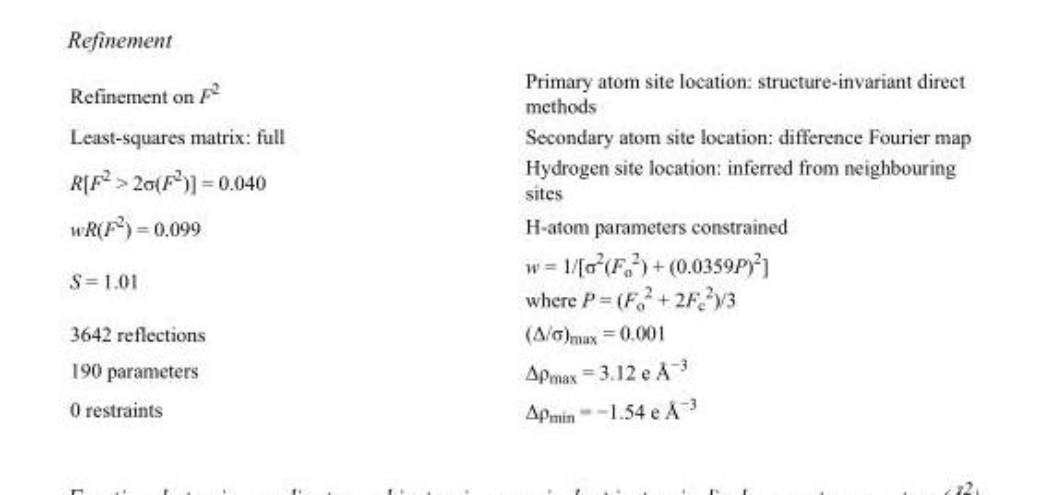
<table><tbody><tr><td>Refinement on F<sup>2</sup></td><td>Primary atom site location: structure-invariant direct methods</td></tr><tr><td>Least-squares matrix: full</td><td>Secondary atom site location: difference Fourier map</td></tr><tr><td>R[F<sup>2</sup> &gt; 2σ(F<sup>2</sup>)] = 0.040</td><td>Hydrogen site location: inferred from neighbouring sites</td></tr><tr><td>wR(F<sup>2</sup>) = 0.099</td><td>H-atom parameters constrained</td></tr><tr><td>S = 1.01</td><td>w = 1/[σ<sup>2</sup>(F<sub>o</sub> <sup>2</sup>) + (0.0359P)<sup>2</sup>] where P = (F<sub>o</sub> <sup>2</sup> + 2F<sub>c</sub> <sup>2</sup>)/3</td></tr><tr><td>3642 reflections</td><td>(Δ/σ)<sub>max</sub> = 0.001</td></tr><tr><td>190 parameters</td><td>Δρ<sub>max</sub> = 3.12 e Å<sup>−3</sup></td></tr><tr><td>0 restraints</td><td>Δρ<sub>min</sub> = −1.54 e Å<sup>−3</sup></td></tr></tbody></table>